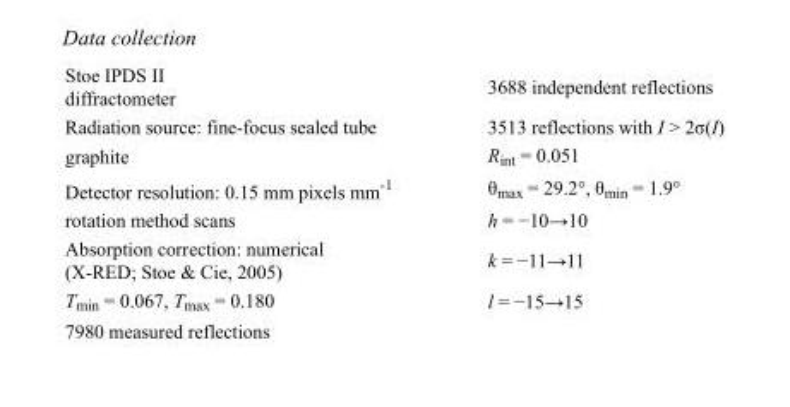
<table><tbody><tr><td>Stoe IPDS II diffractometer</td><td>3688 independent reflections</td></tr><tr><td>Radiation source: fine-focus sealed tube</td><td>3513 reflections with I &gt; 2σ(I)</td></tr><tr><td>graphite</td><td>R<sub>int</sub> = 0.051</td></tr><tr><td>Detector resolution: 0.15 mm pixels mm<sup>-1</sup></td><td>θ<sub>max</sub> = 29.2°, θ<sub>min</sub> = 1.9°</td></tr><tr><td>rotation method scans</td><td>h = −10→10</td></tr><tr><td>Absorption correction: numerical (X-RED; Stoe &amp; Cie, 2005)</td><td>k = −11→11</td></tr><tr><td>T<sub>min</sub> = 0.067, T<sub>max</sub> = 0.180</td><td>l = −15→15</td></tr><tr><td>7980 measured reflections</td><td></td></tr></tbody></table>